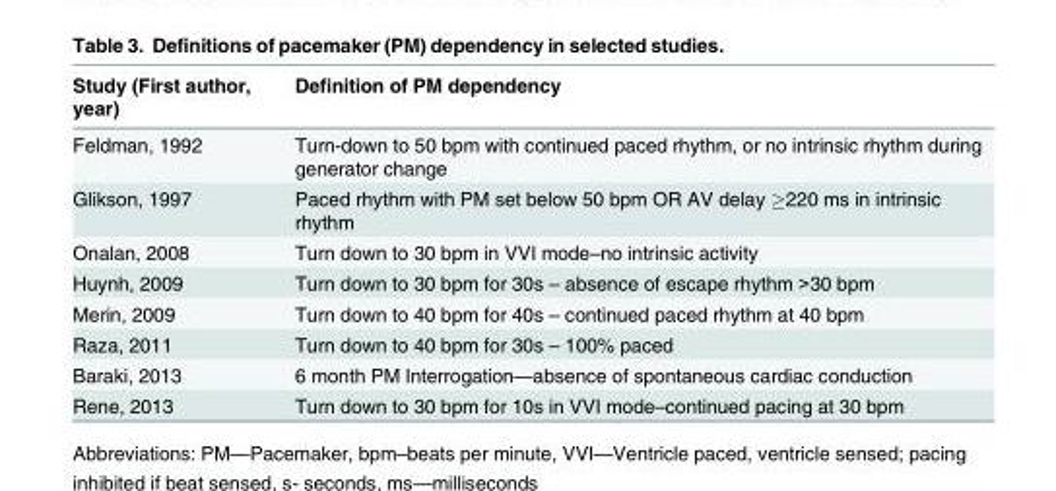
<table><thead><tr><td>Study (First author, year)</td><td>Definition of PM dependency</td></tr></thead><tbody><tr><td>Feldman, 1992</td><td>Turn-down to 50 bpm with continued paced rhythm, or no intrinsic rhythm during generator change</td></tr><tr><td>Glikson, 1997</td><td>Paced rhythm with PM set below 50 bpm OR AV delay ≥220 ms in intrinsic rhythm</td></tr><tr><td>Onalan, 2008</td><td>Turn down to 30 bpm in VVI mode–no intrinsic activity</td></tr><tr><td>Huynh, 2009</td><td>Turn down to 30 bpm for 30s – absence of escape rhythm &gt;30 bpm</td></tr><tr><td>Merin, 2009</td><td>Turn down to 40 bpm for 40s – continued paced rhythm at 40 bpm</td></tr><tr><td>Raza, 2011</td><td>Turn down to 40 bpm for 30s – 100% paced</td></tr><tr><td>Baraki, 2013</td><td>6 month PM Interrogation—absence of spontaneous cardiac conduction</td></tr><tr><td>Rene, 2013</td><td>Turn down to 30 bpm for 10s in VVI mode–continued pacing at 30 bpm</td></tr></tbody></table>